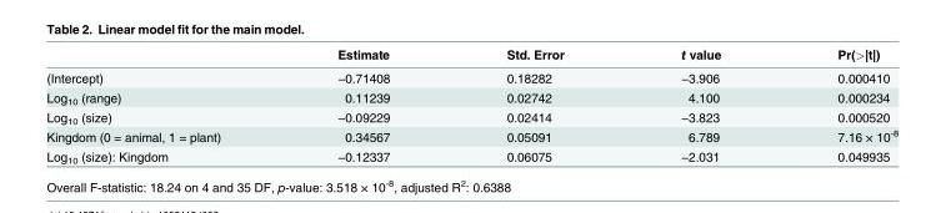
<table><thead><tr><td></td><td>Estimate</td><td>Std. Error</td><td>t value</td><td>Pr(&gt;|t|)</td></tr></thead><tbody><tr><td>(Intercept)</td><td>−0.71408</td><td>0.18282</td><td>−3.906</td><td>0.000410</td></tr><tr><td>Log<sub>10</sub> (range)</td><td>0.11239</td><td>0.02742</td><td>4.100</td><td>0.000234</td></tr><tr><td>Log<sub>10</sub> (size)</td><td>−0.09229</td><td>0.02414</td><td>−3.823</td><td>0.000520</td></tr><tr><td>Kingdom (0 = animal, 1 = plant)</td><td>0.34567</td><td>0.05091</td><td>6.789</td><td>7.16 × 10<sup>-8</sup></td></tr><tr><td>Log<sub>10</sub> (size): Kingdom</td><td>−0.12337</td><td>0.06075</td><td>−2.031</td><td>0.049935</td></tr></tbody></table>